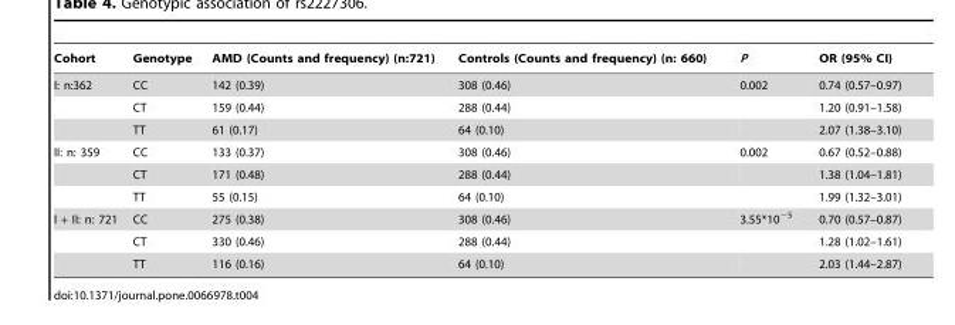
<table><thead><tr><td>Cohort</td><td>Genotype</td><td>AMD (Counts and frequency) (n:721)</td><td>Controls (Counts and frequency) (n: 660)</td><td>P</td><td>OR (95% CI)</td></tr></thead><tbody><tr><td rowspan="3">I: n:362</td><td>CC</td><td>142 (0.39)</td><td>308 (0.46)</td><td>0.002</td><td>0.74 (0.57–0.97)</td></tr><tr><td>CT</td><td>159 (0.44)</td><td>288 (0.44)</td><td></td><td>1.20 (0.91–1.58)</td></tr><tr><td>TT</td><td>61 (0.17)</td><td>64 (0.10)</td><td></td><td>2.07 (1.38–3.10)</td></tr><tr><td rowspan="3">II: n: 359</td><td>CC</td><td>133 (0.37)</td><td>308 (0.46)</td><td>0.002</td><td>0.67 (0.52–0.88)</td></tr><tr><td>CT</td><td>171 (0.48)</td><td>288 (0.44)</td><td></td><td>1.38 (1.04–1.81)</td></tr><tr><td>TT</td><td>55 (0.15)</td><td>64 (0.10)</td><td></td><td>1.99 (1.32–3.01)</td></tr><tr><td rowspan="3">I + II: n: 721</td><td>CC</td><td>275 (0.38)</td><td>308 (0.46)</td><td>3.55*10<sup>−5</sup></td><td>0.70 (0.57–0.87)</td></tr><tr><td>CT</td><td>330 (0.46)</td><td>288 (0.44)</td><td></td><td>1.28 (1.02–1.61)</td></tr><tr><td>TT</td><td>116 (0.16)</td><td>64 (0.10)</td><td></td><td>2.03 (1.44–2.87)</td></tr></tbody></table>